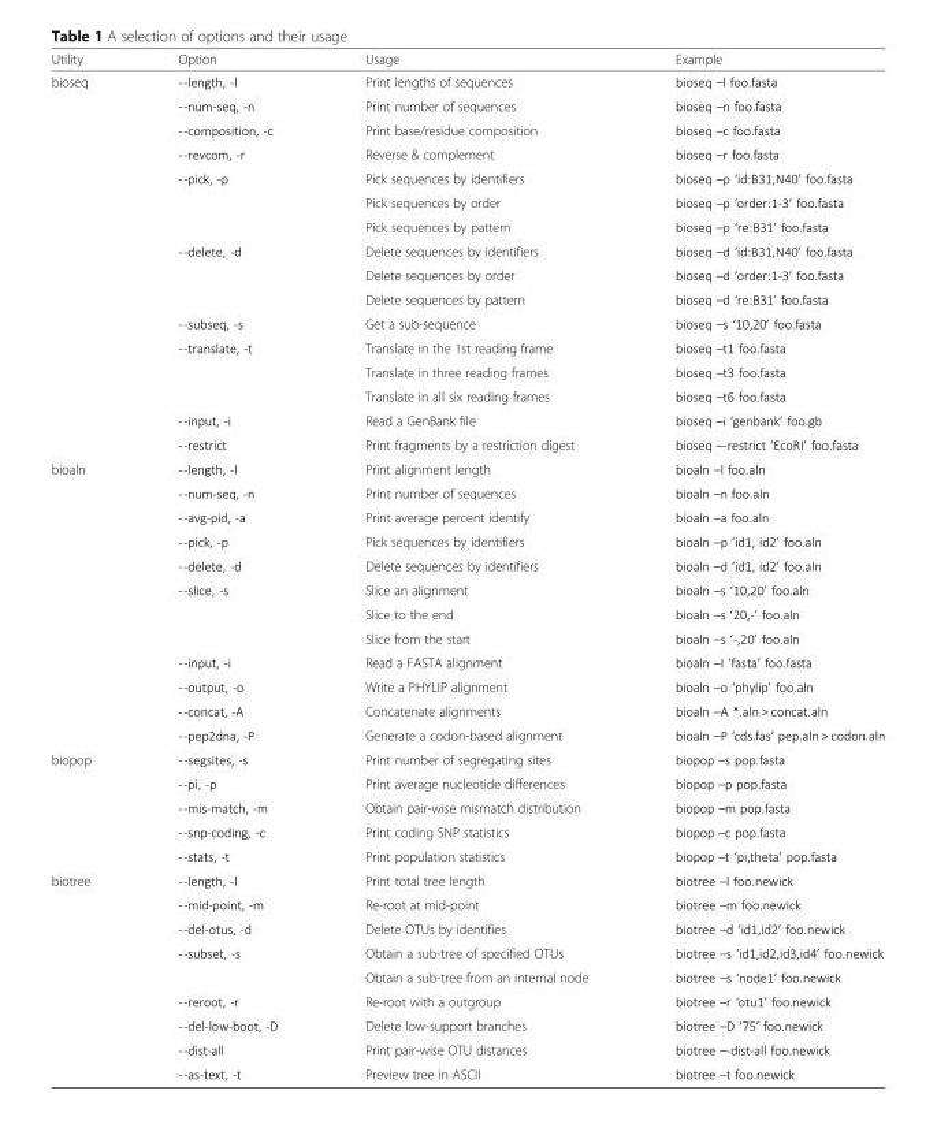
<table><thead><tr><td>Utility</td><td>Option</td><td>Usage</td><td>Example</td></tr></thead><tbody><tr><td rowspan="16">bioseq</td><td>--length, -l</td><td>Print lengths of sequences</td><td>bioseq –l foo.fasta</td></tr><tr><td>--num-seq, -n</td><td>Print number of sequences</td><td>bioseq –n foo.fasta</td></tr><tr><td>--composition, -c</td><td>Print base/residue composition</td><td>bioseq –c foo.fasta</td></tr><tr><td>--revcom, -r</td><td>Reverse &amp; complement</td><td>bioseq –r foo.fasta</td></tr><tr><td rowspan="3">--pick, -p</td><td>Pick sequences by identifiers</td><td>bioseq –p ‘id:B31,N40’ foo.fasta</td></tr><tr><td>Pick sequences by order</td><td>bioseq –p ‘order:1-3’ foo.fasta</td></tr><tr><td>Pick sequences by pattern</td><td>bioseq –p ‘re:B31’ foo.fasta</td></tr><tr><td rowspan="3">--delete, -d</td><td>Delete sequences by identifiers</td><td>bioseq –d ‘id:B31,N40’ foo.fasta</td></tr><tr><td>Delete sequences by order</td><td>bioseq –d ‘order:1-3’ foo.fasta</td></tr><tr><td>Delete sequences by pattern</td><td>bioseq –d ‘re:B31’ foo.fasta</td></tr><tr><td>--subseq, -s</td><td>Get a sub-sequence</td><td>bioseq –s ‘10,20’ foo.fasta</td></tr><tr><td rowspan="3">--translate, -t</td><td>Translate in the 1st reading frame</td><td>bioseq –t1 foo.fasta</td></tr><tr><td>Translate in three reading frames</td><td>bioseq –t3 foo.fasta</td></tr><tr><td>Translate in all six reading frames</td><td>bioseq –t6 foo.fasta</td></tr><tr><td>--input, -i</td><td>Read a GenBank file</td><td>bioseq –i ‘genbank’ foo.gb</td></tr><tr><td>--restrict</td><td>Print fragments by a restriction digest</td><td>bioseq –-restrict ‘EcoRI’ foo.fasta</td></tr><tr><td rowspan="12">bioaln</td><td>--length, -l</td><td>Print alignment length</td><td>bioaln –l foo.aln</td></tr><tr><td>--num-seq, -n</td><td>Print number of sequences</td><td>bioaln –n foo.aln</td></tr><tr><td>--avg-pid, -a</td><td>Print average percent identify</td><td>bioaln –a foo.aln</td></tr><tr><td>--pick, -p</td><td>Pick sequences by identifiers</td><td>bioaln –p ‘id1, id2’ foo.aln</td></tr><tr><td>--delete, -d</td><td>Delete sequences by identifiers</td><td>bioaln –d ‘id1, id2’ foo.aln</td></tr><tr><td rowspan="3">--slice, -s</td><td>Slice an alignment</td><td>bioaln –s ‘10,20’ foo.aln</td></tr><tr><td>Slice to the end</td><td>bioaln –s ‘20,-’ foo.aln</td></tr><tr><td>Slice from the start</td><td>bioaln –s ‘-,20’ foo.aln</td></tr><tr><td>--input, -i</td><td>Read a FASTA alignment</td><td>bioaln –I ‘fasta’ foo.fasta</td></tr><tr><td>--output, -o</td><td>Write a PHYLIP alignment</td><td>bioaln –o ‘phylip’ foo.aln</td></tr><tr><td>--concat, -A</td><td>Concatenate alignments</td><td>bioaln –A *.aln &gt; concat.aln</td></tr><tr><td>--pep2dna, -P</td><td>Generate a codon-based alignment</td><td>bioaln –P ‘cds.fas’ pep.aln &gt; codon.aln</td></tr><tr><td rowspan="5">biopop</td><td>--segsites, -s</td><td>Print number of segregating sites</td><td>biopop –s pop.fasta</td></tr><tr><td>--pi, -p</td><td>Print average nucleotide differences</td><td>biopop –p pop.fasta</td></tr><tr><td>--mis-match, -m</td><td>Obtain pair-wise mismatch distribution</td><td>biopop –m pop.fasta</td></tr><tr><td>--snp-coding, -c</td><td>Print coding SNP statistics</td><td>biopop –c pop.fasta</td></tr><tr><td>--stats, -t</td><td>Print population statistics</td><td>biopop –t ‘pi,theta’ pop.fasta</td></tr><tr><td rowspan="9">biotree</td><td>--length, -l</td><td>Print total tree length</td><td>biotree –l foo.newick</td></tr><tr><td>--mid-point, -m</td><td>Re-root at mid-point</td><td>biotree –m foo.newick</td></tr><tr><td>--del-otus, -d</td><td>Delete OTUs by identifies</td><td>biotree –d ‘id1,id2’ foo.newick</td></tr><tr><td rowspan="2">--subset, -s</td><td>Obtain a sub-tree of specified OTUs</td><td>biotree –s ‘id1,id2,id3,id4’ foo.newick</td></tr><tr><td>Obtain a sub-tree from an internal node</td><td>biotree –s ‘node1’ foo.newick</td></tr><tr><td>--reroot, -r</td><td>Re-root with a outgroup</td><td>biotree –r ‘otu1’ foo.newick</td></tr><tr><td>--del-low-boot, -D</td><td>Delete low-support branches</td><td>biotree –D ‘75’ foo.newick</td></tr><tr><td>--dist-all</td><td>Print pair-wise OTU distances</td><td>biotree –-dist-all foo.newick</td></tr><tr><td>--as-text, -t</td><td>Preview tree in ASCII</td><td>biotree –t foo.newick</td></tr></tbody></table>